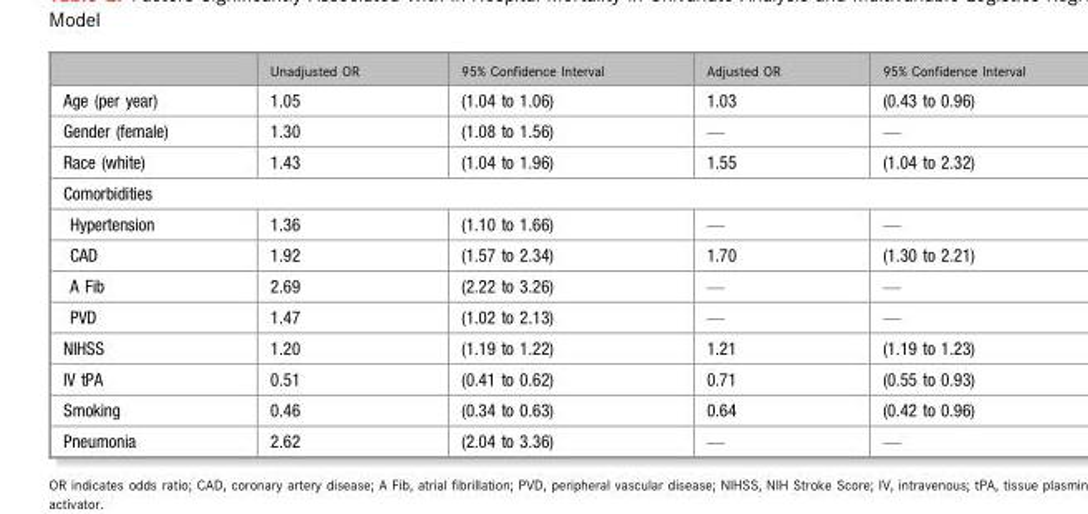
<table><thead><tr><td></td><td>Unadjusted OR</td><td>95% Confidence Interval</td><td>Adjusted OR</td><td>95% Confidence Interval</td></tr></thead><tbody><tr><td>Age (per year)</td><td>1.05</td><td>(1.04 to 1.06)</td><td>1.03</td><td>(0.43 to 0.96)</td></tr><tr><td>Gender (female)</td><td>1.30</td><td>(1.08 to 1.56)</td><td>—</td><td>—</td></tr><tr><td>Race (white)</td><td>1.43</td><td>(1.04 to 1.96)</td><td>1.55</td><td>(1.04 to 2.32)</td></tr><tr><td colspan="5">Comorbidities</td></tr><tr><td>Hypertension</td><td>1.36</td><td>(1.10 to 1.66)</td><td>—</td><td>—</td></tr><tr><td>CAD</td><td>1.92</td><td>(1.57 to 2.34)</td><td>1.70</td><td>(1.30 to 2.21)</td></tr><tr><td>A Fib</td><td>2.69</td><td>(2.22 to 3.26)</td><td>—</td><td>—</td></tr><tr><td>PVD</td><td>1.47</td><td>(1.02 to 2.13)</td><td>—</td><td>—</td></tr><tr><td>NIHSS</td><td>1.20</td><td>(1.19 to 1.22)</td><td>1.21</td><td>(1.19 to 1.23)</td></tr><tr><td>IV tPA</td><td>0.51</td><td>(0.41 to 0.62)</td><td>0.71</td><td>(0.55 to 0.93)</td></tr><tr><td>Smoking</td><td>0.46</td><td>(0.34 to 0.63)</td><td>0.64</td><td>(0.42 to 0.96)</td></tr><tr><td>Pneumonia</td><td>2.62</td><td>(2.04 to 3.36)</td><td>—</td><td>—</td></tr></tbody></table>